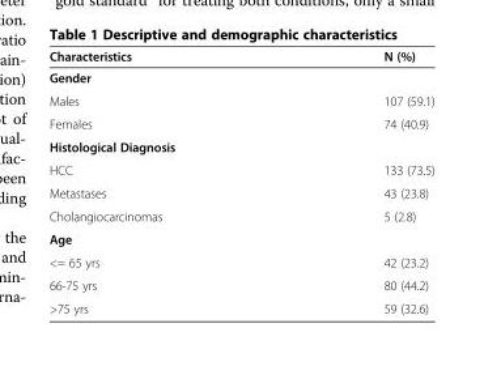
<table><thead><tr><td>Characteristics</td><td>N (%)</td></tr></thead><tbody><tr><td colspan="2">Gender</td></tr><tr><td>Males</td><td>107 (59.1)</td></tr><tr><td>Females</td><td>74 (40.9)</td></tr><tr><td colspan="2">Histological Diagnosis</td></tr><tr><td>HCC</td><td>133 (73.5)</td></tr><tr><td>Metastases</td><td>43 (23.8)</td></tr><tr><td>Cholangiocarcinomas</td><td>5 (2.8)</td></tr><tr><td colspan="2">Age</td></tr><tr><td>&lt;= 65 yrs</td><td>42 (23.2)</td></tr><tr><td>66-75 yrs</td><td>80 (44.2)</td></tr><tr><td>&gt;75 yrs</td><td>59 (32.6)</td></tr></tbody></table>